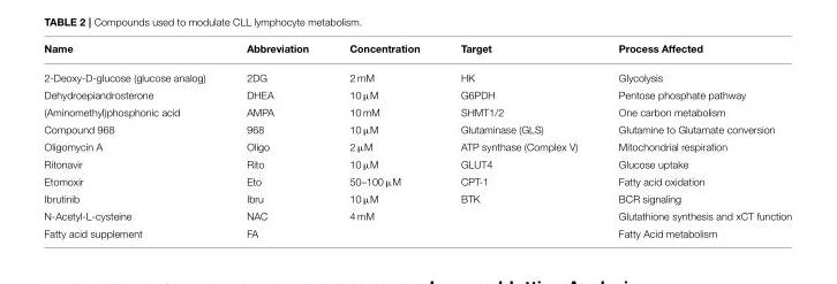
<table><thead><tr><td>Name</td><td>Abbreviation</td><td>Concentration</td><td>Target</td><td>Process Affected</td></tr></thead><tbody><tr><td>2-Deoxy-D-glucose (glucose analog)</td><td>2DG</td><td>2 mM</td><td>HK</td><td>Glycolysis</td></tr><tr><td>Dehydroepiandrosterone</td><td>DHEA</td><td>10 µM</td><td>G6PDH</td><td>Pentose phosphate pathway</td></tr><tr><td>(Aminomethyl)phosphonic acid</td><td>AMPA</td><td>10 mM</td><td>SHMT1/2</td><td>One carbon metabolism</td></tr><tr><td>Compound 968</td><td>968</td><td>10 µM</td><td>Glutaminase (GLS)</td><td>Glutamine to Glutamate conversion</td></tr><tr><td>Oligomycin A</td><td>Oligo</td><td>2 µM</td><td>ATP synthase (Complex V)</td><td>Mitochondrial respiration</td></tr><tr><td>Ritonavir</td><td>Rito</td><td>10 µM</td><td>GLUT4</td><td>Glucose uptake</td></tr><tr><td>Etomoxir</td><td>Eto</td><td>50–100 µM</td><td>CPT-1</td><td>Fatty acid oxidation</td></tr><tr><td>Ibrutinib</td><td>Ibru</td><td>10 µM</td><td>BTK</td><td>BCR signaling</td></tr><tr><td>N-Acetyl-L-cysteine</td><td>NAC</td><td>4 mM</td><td></td><td>Glutathione synthesis and xCT function</td></tr><tr><td>Fatty acid supplement</td><td>FA</td><td></td><td></td><td>Fatty Acid metabolism</td></tr></tbody></table>